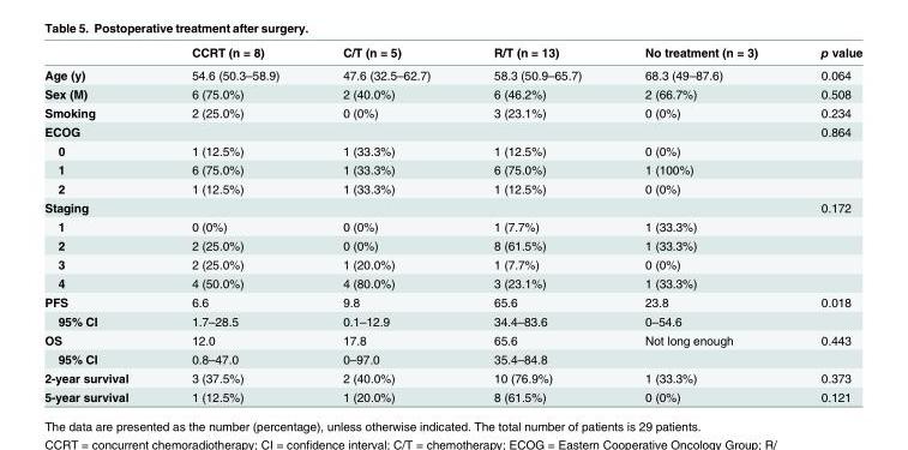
<table><thead><tr><td></td><td>CCRT (n = 8)</td><td>C/T (n = 5)</td><td>R/T (n = 13)</td><td>No treatment (n = 3)</td><td>p value</td></tr></thead><tbody><tr><td>Age (y)</td><td>54.6 (50.3–58.9)</td><td>47.6 (32.5–62.7)</td><td>58.3 (50.9–65.7)</td><td>68.3 (49–87.6)</td><td>0.064</td></tr><tr><td>Sex (M)</td><td>6 (75.0%)</td><td>2 (40.0%)</td><td>6 (46.2%)</td><td>2 (66.7%)</td><td>0.508</td></tr><tr><td>Smoking</td><td>2 (25.0%)</td><td>0 (0%)</td><td>3 (23.1%)</td><td>0 (0%)</td><td>0.234</td></tr><tr><td>ECOG</td><td></td><td></td><td></td><td></td><td>0.864</td></tr><tr><td>0</td><td>1 (12.5%)</td><td>1 (33.3%)</td><td>1 (12.5%)</td><td>0 (0%)</td><td></td></tr><tr><td>1</td><td>6 (75.0%)</td><td>1 (33.3%)</td><td>6 (75.0%)</td><td>1 (100%)</td><td></td></tr><tr><td>2</td><td>1 (12.5%)</td><td>1 (33.3%)</td><td>1 (12.5%)</td><td>0 (0%)</td><td></td></tr><tr><td>Staging</td><td></td><td></td><td></td><td></td><td>0.172</td></tr><tr><td>1</td><td>0 (0%)</td><td>0 (0%)</td><td>1 (7.7%)</td><td>1 (33.3%)</td><td></td></tr><tr><td>2</td><td>2 (25.0%)</td><td>0 (0%)</td><td>8 (61.5%)</td><td>1 (33.3%)</td><td></td></tr><tr><td>3</td><td>2 (25.0%)</td><td>1 (20.0%)</td><td>1 (7.7%)</td><td>0 (0%)</td><td></td></tr><tr><td>4</td><td>4 (50.0%)</td><td>4 (80.0%)</td><td>3 (23.1%)</td><td>1 (33.3%)</td><td></td></tr><tr><td>PFS</td><td>6.6</td><td>9.8</td><td>65.6</td><td>23.8</td><td>0.018</td></tr><tr><td>95% CI</td><td>1.7–28.5</td><td>0.1–12.9</td><td>34.4–83.6</td><td>0–54.6</td><td></td></tr><tr><td>OS</td><td>12.0</td><td>17.8</td><td>65.6</td><td>Not long enough</td><td>0.443</td></tr><tr><td>95% CI</td><td>0.8–47.0</td><td>0–97.0</td><td>35.4–84.8</td><td></td><td></td></tr><tr><td>2-year survival</td><td>3 (37.5%)</td><td>2 (40.0%)</td><td>10 (76.9%)</td><td>1 (33.3%)</td><td>0.373</td></tr><tr><td>5-year survival</td><td>1 (12.5%)</td><td>1 (20.0%)</td><td>8 (61.5%)</td><td>0 (0%)</td><td>0.121</td></tr></tbody></table>